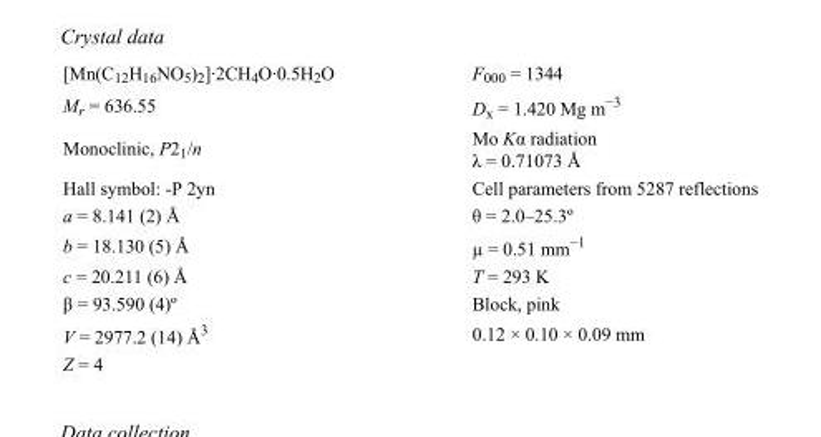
<table><tbody><tr><td>[Mn(C<sub>12</sub>H<sub>16</sub>NO<sub>5</sub>)<sub>2</sub>]·2CH<sub>4</sub>O·0.5H<sub>2</sub>O</td><td>F000 = 1344</td></tr><tr><td>M<sub>r</sub> = 636.55</td><td>D<sub>x</sub> = 1.420 Mg m<sup>−3</sup></td></tr><tr><td>Monoclinic, P2<sub>1</sub>/n</td><td>Mo Kα radiation λ = 0.71073 Å</td></tr><tr><td>Hall symbol: -P 2yn</td><td>Cell parameters from 5287 reflections</td></tr><tr><td>a = 8.141 (2) Å</td><td>θ = 2.0–25.3º</td></tr><tr><td>b = 18.130 (5) Å</td><td>µ = 0.51 mm<sup>−1</sup></td></tr><tr><td>c = 20.211 (6) Å</td><td>T = 293 K</td></tr><tr><td>β = 93.590 (4)º</td><td>Block, pink</td></tr><tr><td>V = 2977.2 (14) Å<sup>3</sup></td><td>0.12 × 0.10 × 0.09 mm</td></tr><tr><td>Z = 4</td><td></td></tr></tbody></table>